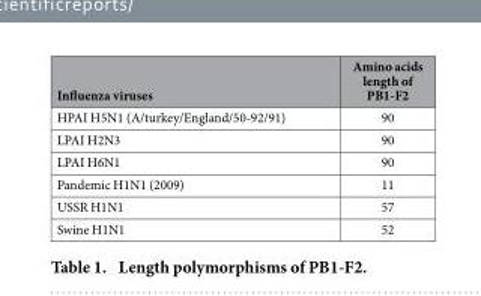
<table><thead><tr><td>Influenza viruses</td><td>Amino acids length of PB1-F2</td></tr></thead><tbody><tr><td>HPAI H5N1 (A/turkey/England/50-92/91)</td><td>90</td></tr><tr><td>LPAI H2N3</td><td>90</td></tr><tr><td>LPAI H6N1</td><td>90</td></tr><tr><td>Pandemic H1N1 (2009)</td><td>11</td></tr><tr><td>USSR H1N1</td><td>57</td></tr><tr><td>Swine H1N1</td><td>52</td></tr></tbody></table>